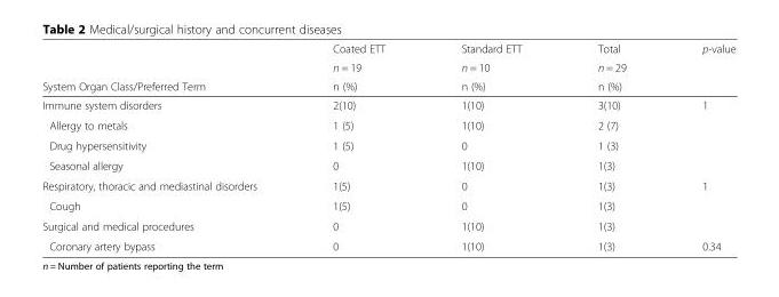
<table><thead><tr><td rowspan="3">System Organ Class/Preferred Term</td><td rowspan="3">Coated ETT n = 19 n (%)</td><td rowspan="3">Standard ETT n = 10 n (%)</td><td rowspan="3">Total n = 29 n (%)</td><td rowspan="3">p-value</td></tr><tr></tr><tr></tr></thead><tbody><tr><td>Immune system disorders</td><td>2(10)</td><td>1(10)</td><td>3(10)</td><td>1</td></tr><tr><td>Allergy to metals</td><td>1 (5)</td><td>1(10)</td><td>2 (7)</td><td></td></tr><tr><td>Drug hypersensitivity</td><td>1 (5)</td><td>0</td><td>1 (3)</td><td></td></tr><tr><td>Seasonal allergy</td><td>0</td><td>1(10)</td><td>1(3)</td><td></td></tr><tr><td>Respiratory, thoracic and mediastinal disorders</td><td>1(5)</td><td>0</td><td>1(3)</td><td>1</td></tr><tr><td>Cough</td><td>1(5)</td><td>0</td><td>1(3)</td><td></td></tr><tr><td>Surgical and medical procedures</td><td>0</td><td>1(10)</td><td>1(3)</td><td></td></tr><tr><td>Coronary artery bypass</td><td>0</td><td>1(10)</td><td>1(3)</td><td>0.34</td></tr></tbody></table>